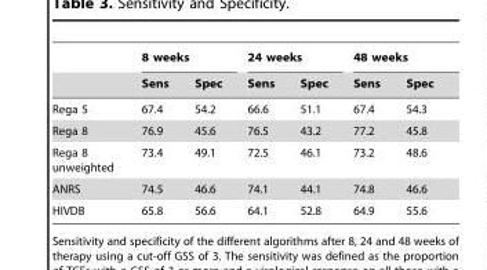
<table><thead><tr><td rowspan="2"></td><td colspan="2">8 weeks</td><td colspan="2">24 weeks</td><td colspan="2">48 weeks</td></tr><tr><td>Sens</td><td>Spec</td><td>Sens</td><td>Spec</td><td>Sens</td><td>Spec</td></tr></thead><tbody><tr><td>Rega 5</td><td>67.4</td><td>54.2</td><td>66.6</td><td>51.1</td><td>67.4</td><td>54.3</td></tr><tr><td>Rega 8</td><td>76.9</td><td>45.6</td><td>76.5</td><td>43.2</td><td>77.2</td><td>45.8</td></tr><tr><td>Rega 8 unweighted</td><td>73.4</td><td>49.1</td><td>72.5</td><td>46.1</td><td>73.2</td><td>48.6</td></tr><tr><td>ANRS</td><td>74.5</td><td>46.6</td><td>74.1</td><td>44.1</td><td>74.8</td><td>46.6</td></tr><tr><td>HIVDB</td><td>65.8</td><td>56.6</td><td>64.1</td><td>52.8</td><td>64.9</td><td>55.6</td></tr></tbody></table>